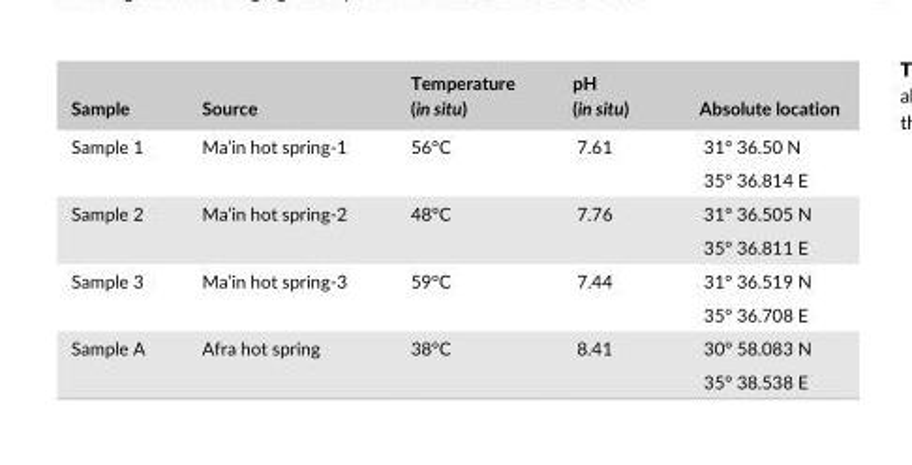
<table><thead><tr><td>Sample</td><td>Source</td><td>Temperature (in situ)</td><td>pH (in situ)</td><td>Absolute location</td></tr></thead><tbody><tr><td rowspan="2">Sample 1</td><td rowspan="2">Ma’in hot spring- 1</td><td rowspan="2">56°C</td><td rowspan="2">7.61</td><td>31° 36.50 N</td></tr><tr><td>35° 36.814 E</td></tr><tr><td rowspan="2">Sample 2</td><td rowspan="2">Ma’in hot spring- 2</td><td rowspan="2">48°C</td><td rowspan="2">7.76</td><td>31° 36.505 N</td></tr><tr><td>35° 36.811 E</td></tr><tr><td rowspan="2">Sample 3</td><td rowspan="2">Ma’in hot spring- 3</td><td rowspan="2">59°C</td><td rowspan="2">7.44</td><td>31° 36.519 N</td></tr><tr><td>35° 36.708 E</td></tr><tr><td rowspan="2">Sample A</td><td rowspan="2">Afra hot spring</td><td rowspan="2">38°C</td><td rowspan="2">8.41</td><td>30° 58.083 N</td></tr><tr><td>35° 38.538 E</td></tr></tbody></table>